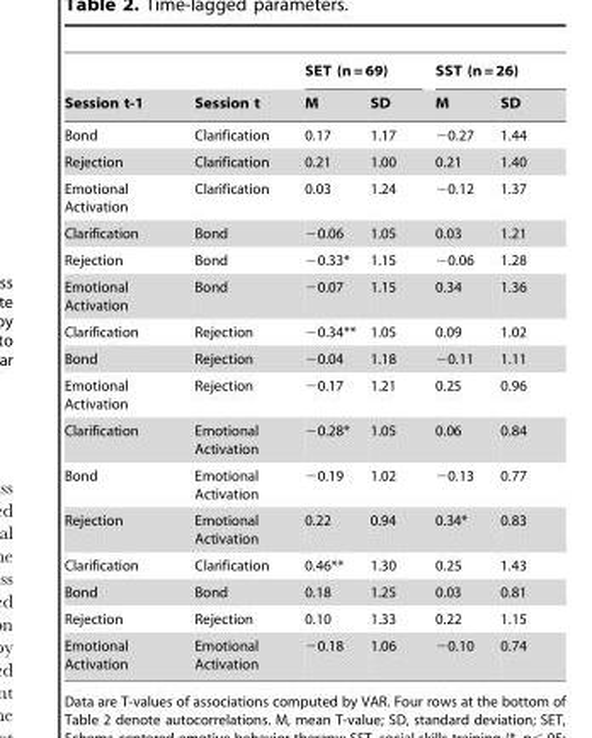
<table><thead><tr><td rowspan="2">Session t-1</td><td rowspan="2">Session t</td><td colspan="2">SET (n = 69)</td><td colspan="2">SST (n = 26)</td></tr><tr><td>M</td><td>SD</td><td>M</td><td>SD</td></tr></thead><tbody><tr><td>Bond</td><td>Clarification</td><td>0.17</td><td>1.17</td><td>−0.27</td><td>1.44</td></tr><tr><td>Rejection</td><td>Clarification</td><td>0.21</td><td>1.00</td><td>0.21</td><td>1.40</td></tr><tr><td>Emotional Activation</td><td>Clarification</td><td>0.03</td><td>1.24</td><td>−0.12</td><td>1.37</td></tr><tr><td>Clarification</td><td>Bond</td><td>−0.06</td><td>1.05</td><td>0.03</td><td>1.21</td></tr><tr><td>Rejection</td><td>Bond</td><td>−0.33*</td><td>1.15</td><td>−0.06</td><td>1.28</td></tr><tr><td>Emotional Activation</td><td>Bond</td><td>−0.07</td><td>1.15</td><td>0.34</td><td>1.36</td></tr><tr><td>Clarification</td><td>Rejection</td><td>−0.34**</td><td>1.05</td><td>0.09</td><td>1.02</td></tr><tr><td>Bond</td><td>Rejection</td><td>−0.04</td><td>1.18</td><td>−0.11</td><td>1.11</td></tr><tr><td>Emotional Activation</td><td>Rejection</td><td>−0.17</td><td>1.21</td><td>0.25</td><td>0.96</td></tr><tr><td>Clarification</td><td>Emotional Activation</td><td>−0.28*</td><td>1.05</td><td>0.06</td><td>0.84</td></tr><tr><td>Bond</td><td>Emotional Activation</td><td>−0.19</td><td>1.02</td><td>−0.13</td><td>0.77</td></tr><tr><td>Rejection</td><td>Emotional Activation</td><td>0.22</td><td>0.94</td><td>0.34*</td><td>0.83</td></tr><tr><td>Clarification</td><td>Clarification</td><td>0.46**</td><td>1.30</td><td>0.25</td><td>1.43</td></tr><tr><td>Bond</td><td>Bond</td><td>0.18</td><td>1.25</td><td>0.03</td><td>0.81</td></tr><tr><td>Rejection</td><td>Rejection</td><td>0.10</td><td>1.33</td><td>0.22</td><td>1.15</td></tr><tr><td>Emotional Activation</td><td>Emotional Activation</td><td>−0.18</td><td>1.06</td><td>−0.10</td><td>0.74</td></tr></tbody></table>